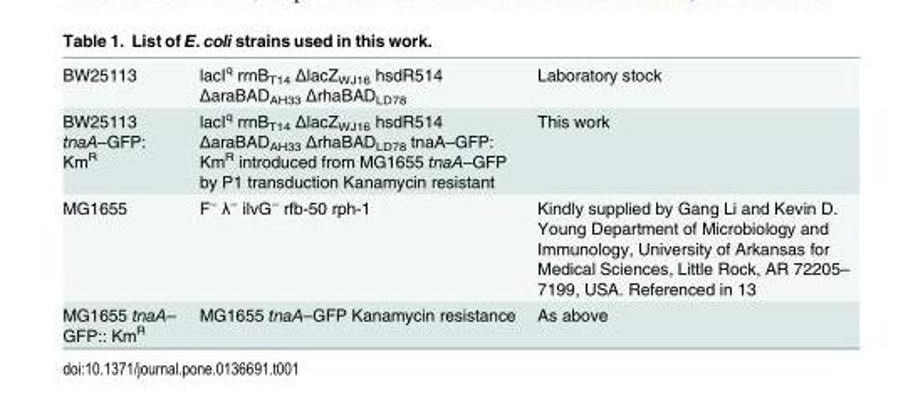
<table><tbody><tr><td>BW25113</td><td>lacI<sup>q</sup> rrnB<sub>T14</sub> ΔlacZ<sub>WJ16</sub> hsdR514 ΔaraBAD<sub>AH33</sub> ΔrhaBAD<sub>LD78</sub></td><td>Laboratory stock</td></tr><tr><td>BW25113 tnaA–GFP: Km<sup>R</sup></td><td>lacI<sup>q</sup> rrnB<sub>T14</sub> ΔlacZ<sub>WJ16</sub> hsdR514 ΔaraBAD<sub>AH33</sub> ΔrhaBAD<sub>LD78</sub> tnaA–GFP: Km<sup>R</sup> introduced from MG1655 tnaA–GFP by P1 transduction Kanamycin resistant</td><td>This work</td></tr><tr><td>MG1655</td><td>F<sup>−</sup> λ<sup>−</sup> ilvG<sup>−</sup> rfb-50 rph-1</td><td>Kindly supplied by Gang Li and Kevin D. Young Department of Microbiology and Immunology, University of Arkansas for Medical Sciences, Little Rock, AR 72205– 7199, USA. Referenced in 13</td></tr><tr><td>MG1655 tnaA– GFP:: Km<sup>R</sup></td><td>MG1655 tnaA–GFP Kanamycin resistance</td><td>As above</td></tr></tbody></table>